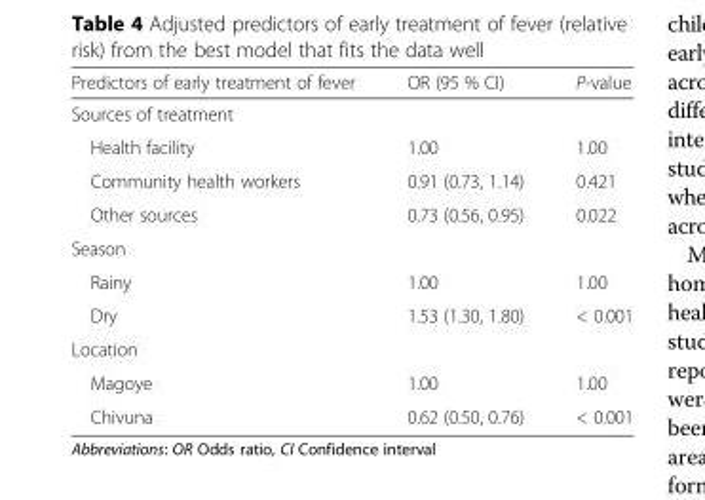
<table><thead><tr><td>Predictors of early treatment of fever</td><td>OR (95 % CI)</td><td>P-value</td></tr></thead><tbody><tr><td colspan="3">Sources of treatment</td></tr><tr><td>Health facility</td><td>1.00</td><td>1.00</td></tr><tr><td>Community health workers</td><td>0.91 (0.73, 1.14)</td><td>0.421</td></tr><tr><td>Other sources</td><td>0.73 (0.56, 0.95)</td><td>0.022</td></tr><tr><td colspan="3">Season</td></tr><tr><td>Rainy</td><td>1.00</td><td>1.00</td></tr><tr><td>Dry</td><td>1.53 (1.30, 1.80)</td><td>&lt; 0.001</td></tr><tr><td colspan="3">Location</td></tr><tr><td>Magoye</td><td>1.00</td><td>1.00</td></tr><tr><td>Chivuna</td><td>0.62 (0.50, 0.76)</td><td>&lt; 0.001</td></tr></tbody></table>